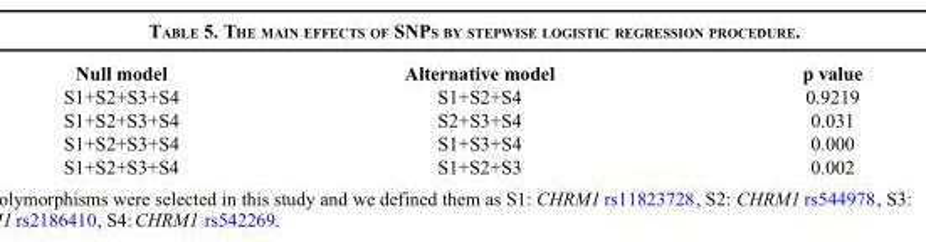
<table><tbody><tr><td>Null model</td><td>Alternative model</td><td>p value</td></tr><tr><td>S1+S2+S3+S4</td><td>S1+S2+S4</td><td>0.9219</td></tr><tr><td>S1+S2+S3+S4</td><td>S2+S3+S4</td><td>0.031</td></tr><tr><td>S1+S2+S3+S4</td><td>S1+S3+S4</td><td>0.000</td></tr><tr><td>S1+S2+S3+S4</td><td>S1+S2+S3</td><td>0.002</td></tr></tbody></table>